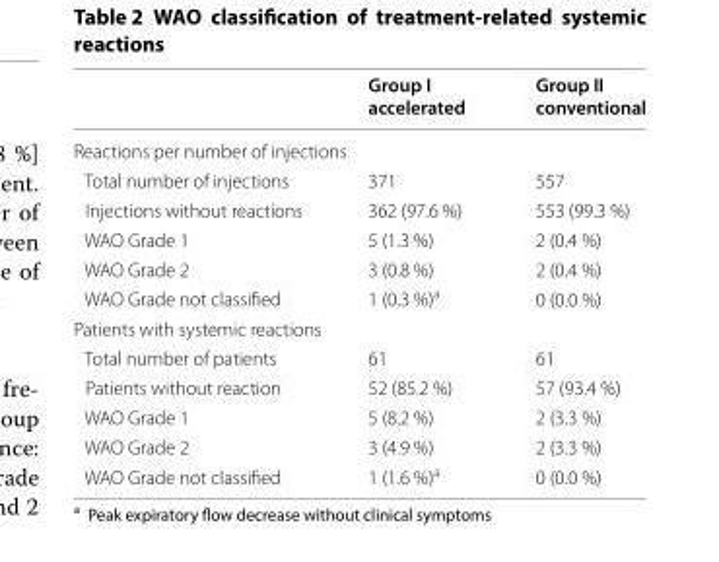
<table><thead><tr><td></td><td>Group I accelerated</td><td>Group II conventional</td></tr></thead><tbody><tr><td colspan="3">Reactions per number of injections</td></tr><tr><td>Total number of injections</td><td>371</td><td>557</td></tr><tr><td>Injections without reactions</td><td>362 (97.6 %)</td><td>553 (99.3 %)</td></tr><tr><td>WAO Grade 1</td><td>5 (1.3 %)</td><td>2 (0.4 %)</td></tr><tr><td>WAO Grade 2</td><td>3 (0.8 %)</td><td>2 (0.4 %)</td></tr><tr><td>WAO Grade not classified</td><td>1 (0.3 %)<sup>a</sup></td><td>0 (0.0 %)</td></tr><tr><td colspan="3">Patients with systemic reactions</td></tr><tr><td>Total number of patients</td><td>61</td><td>61</td></tr><tr><td>Patients without reaction</td><td>52 (85.2 %)</td><td>57 (93.4 %)</td></tr><tr><td>WAO Grade 1</td><td>5 (8.2 %)</td><td>2 (3.3 %)</td></tr><tr><td>WAO Grade 2</td><td>3 (4.9 %)</td><td>2 (3.3 %)</td></tr><tr><td>WAO Grade not classified</td><td>1 (1.6 %)<sup>a</sup></td><td>0 (0.0 %)</td></tr></tbody></table>